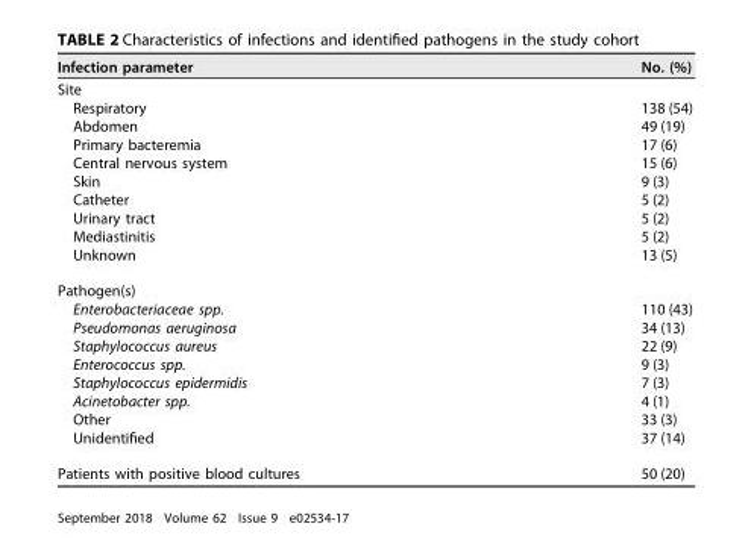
<table><thead><tr><td>Infection parameter</td><td>No. (%)</td></tr></thead><tbody><tr><td colspan="2">Site</td></tr><tr><td>Respiratory</td><td>138 (54)</td></tr><tr><td>Abdomen</td><td>49 (19)</td></tr><tr><td>Primary bacteremia</td><td>17 (6)</td></tr><tr><td>Central nervous system</td><td>15 (6)</td></tr><tr><td>Skin</td><td>9 (3)</td></tr><tr><td>Catheter</td><td>5 (2)</td></tr><tr><td>Urinary tract</td><td>5 (2)</td></tr><tr><td>Mediastinitis</td><td>5 (2)</td></tr><tr><td>Unknown</td><td>13 (5)</td></tr><tr><td colspan="2">Pathogen(s)</td></tr><tr><td>Enterobacteriaceae spp.</td><td>110 (43)</td></tr><tr><td>Pseudomonas aeruginosa</td><td>34 (13)</td></tr><tr><td>Staphylococcus aureus</td><td>22 (9)</td></tr><tr><td>Enterococcus spp.</td><td>9 (3)</td></tr><tr><td>Staphylococcus epidermidis</td><td>7 (3)</td></tr><tr><td>Acinetobacter spp.</td><td>4 (1)</td></tr><tr><td>Other</td><td>33 (3)</td></tr><tr><td>Unidentified</td><td>37 (14)</td></tr><tr><td>Patients with positive blood cultures</td><td>50 (20)</td></tr></tbody></table>